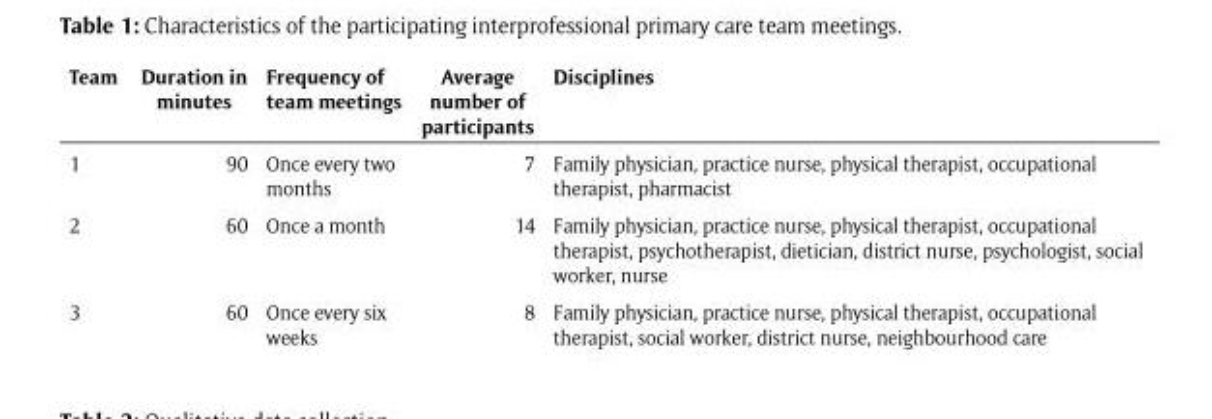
<table><thead><tr><td>Team</td><td>Duration in minutes</td><td>Frequency of team meetings</td><td>Average number of participants</td><td>Disciplines</td></tr></thead><tbody><tr><td>1</td><td>90</td><td>Once every two months</td><td>7</td><td>Family physician, practice nurse, physical therapist, occupational therapist, pharmacist</td></tr><tr><td>2</td><td>60</td><td>Once a month</td><td>14</td><td>Family physician, practice nurse, physical therapist, occupational therapist, psychotherapist, dietician, district nurse, psychologist, social worker, nurse</td></tr><tr><td>3</td><td>60</td><td>Once every six weeks</td><td>8</td><td>Family physician, practice nurse, physical therapist, occupational therapist, social worker, district nurse, neighbourhood care</td></tr></tbody></table>